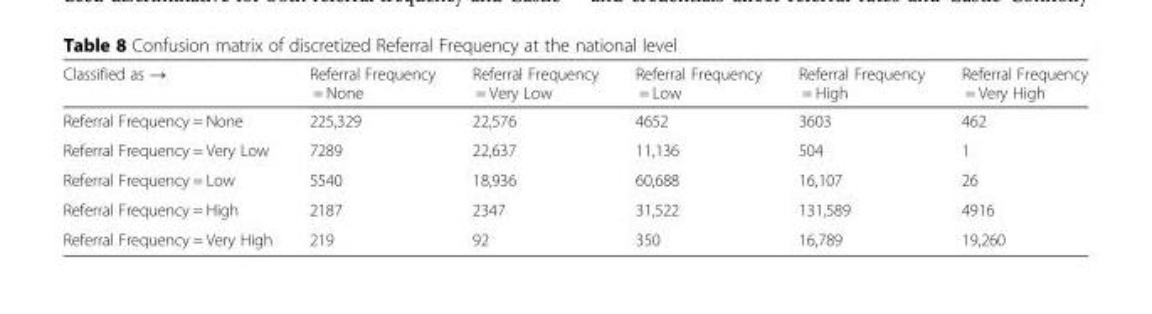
<table><thead><tr><td>Classified as →</td><td>Referral Frequency = None</td><td>Referral Frequency = Very Low</td><td>Referral Frequency = Low</td><td>Referral Frequency = High</td><td>Referral Frequency = Very High</td></tr></thead><tbody><tr><td>Referral Frequency = None</td><td>225,329</td><td>22,576</td><td>4652</td><td>3603</td><td>462</td></tr><tr><td>Referral Frequency = Very Low</td><td>7289</td><td>22,637</td><td>11,136</td><td>504</td><td>1</td></tr><tr><td>Referral Frequency = Low</td><td>5540</td><td>18,936</td><td>60,688</td><td>16,107</td><td>26</td></tr><tr><td>Referral Frequency = High</td><td>2187</td><td>2347</td><td>31,522</td><td>131,589</td><td>4916</td></tr><tr><td>Referral Frequency = Very High</td><td>219</td><td>92</td><td>350</td><td>16,789</td><td>19,260</td></tr></tbody></table>